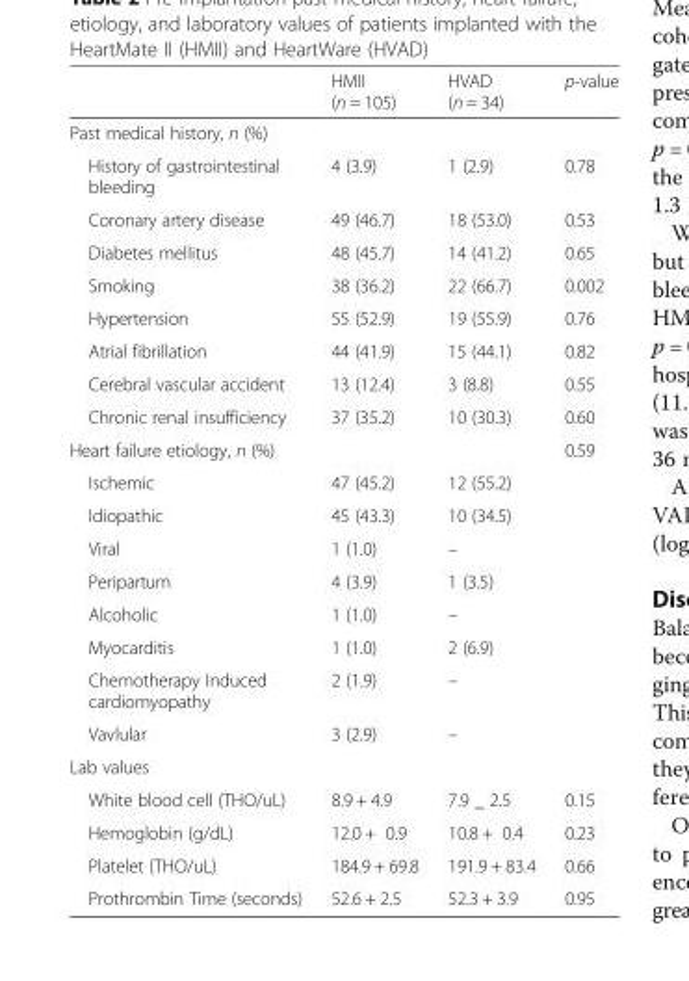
<table><thead><tr><td></td><td>HMII (n = 105)</td><td>HVAD (n = 34)</td><td>p-value</td></tr></thead><tbody><tr><td colspan="4">Past medical history, n (%)</td></tr><tr><td>History of gastrointestinal bleeding</td><td>4 (3.9)</td><td>1 (2.9)</td><td>0.78</td></tr><tr><td>Coronary artery disease</td><td>49 (46.7)</td><td>18 (53.0)</td><td>0.53</td></tr><tr><td>Diabetes mellitus</td><td>48 (45.7)</td><td>14 (41.2)</td><td>0.65</td></tr><tr><td>Smoking</td><td>38 (36.2)</td><td>22 (66.7)</td><td>0.002</td></tr><tr><td>Hypertension</td><td>55 (52.9)</td><td>19 (55.9)</td><td>0.76</td></tr><tr><td>Atrial fibrillation</td><td>44 (41.9)</td><td>15 (44.1)</td><td>0.82</td></tr><tr><td>Cerebral vascular accident</td><td>13 (12.4)</td><td>3 (8.8)</td><td>0.55</td></tr><tr><td>Chronic renal insufficiency</td><td>37 (35.2)</td><td>10 (30.3)</td><td>0.60</td></tr><tr><td>Heart failure etiology, n (%)</td><td></td><td></td><td>0.59</td></tr><tr><td>Ischemic</td><td>47 (45.2)</td><td>12 (55.2)</td><td></td></tr><tr><td>Idiopathic</td><td>45 (43.3)</td><td>10 (34.5)</td><td></td></tr><tr><td>Viral</td><td>1 (1.0)</td><td>–</td><td></td></tr><tr><td>Peripartum</td><td>4 (3.9)</td><td>1 (3.5)</td><td></td></tr><tr><td>Alcoholic</td><td>1 (1.0)</td><td>–</td><td></td></tr><tr><td>Myocarditis</td><td>1 (1.0)</td><td>2 (6.9)</td><td></td></tr><tr><td>Chemotherapy Induced cardiomyopathy</td><td>2 (1.9)</td><td>–</td><td></td></tr><tr><td>Vavlular</td><td>3 (2.9)</td><td>–</td><td></td></tr><tr><td colspan="4">Lab values</td></tr><tr><td>White blood cell (THO/uL)</td><td>8.9 + 4.9</td><td>7.9 _ 2.5</td><td>0.15</td></tr><tr><td>Hemoglobin (g/dL)</td><td>12.0 + 0.9</td><td>10.8 + 0.4</td><td>0.23</td></tr><tr><td>Platelet (THO/uL)</td><td>184.9 + 69.8</td><td>191.9 + 83.4</td><td>0.66</td></tr><tr><td>Prothrombin Time (seconds)</td><td>52.6 + 2.5</td><td>52.3 + 3.9</td><td>0.95</td></tr></tbody></table>